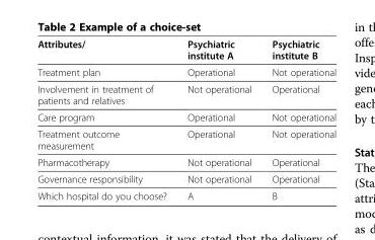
<table><thead><tr><td>Attributes/</td><td>Psychiatric institute A</td><td>Psychiatric institute B</td></tr></thead><tbody><tr><td>Treatment plan</td><td>Operational</td><td>Not operational</td></tr><tr><td>Involvement in treatment of patients and relatives</td><td>Not operational</td><td>Operational</td></tr><tr><td>Care program</td><td>Operational</td><td>Not operational</td></tr><tr><td>Treatment outcome measurement</td><td>Operational</td><td>Not operational</td></tr><tr><td>Pharmacotherapy</td><td>Not operational</td><td>Operational</td></tr><tr><td>Governance responsibility</td><td>Not operational</td><td>Operational</td></tr><tr><td>Which hospital do you choose?</td><td>A</td><td>B</td></tr></tbody></table>